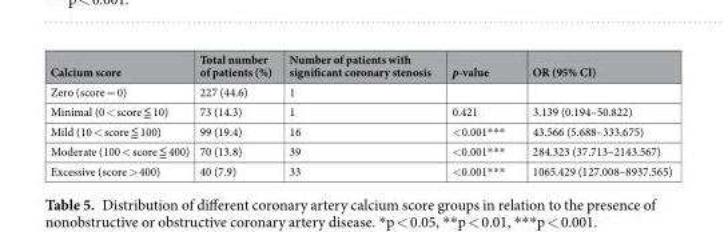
<table><thead><tr><td>Calcium score</td><td>Total number of patients (%)</td><td>Number of patients with significant coronary stenosis</td><td>p-value</td><td>OR (95% CI)</td></tr></thead><tbody><tr><td>Zero (score = 0)</td><td>227 (44.6)</td><td>1</td><td></td><td></td></tr><tr><td>Minimal (0 &lt; score ≦ 10)</td><td>73 (14.3)</td><td>1</td><td>0.421</td><td>3.139 (0.194–50.822)</td></tr><tr><td>Mild (10 &lt; score ≦ 100)</td><td>99 (19.4)</td><td>16</td><td>&lt;0.001***</td><td>43.566 (5.688–333.675)</td></tr><tr><td>Moderate (100 &lt; score ≦ 400)</td><td>70 (13.8)</td><td>39</td><td>&lt;0.001***</td><td>284.323 (37.713–2143.567)</td></tr><tr><td>Excessive (score &gt; 400)</td><td>40 (7.9)</td><td>33</td><td>&lt;0.001***</td><td>1065.429 (127.008–8937.565)</td></tr></tbody></table>